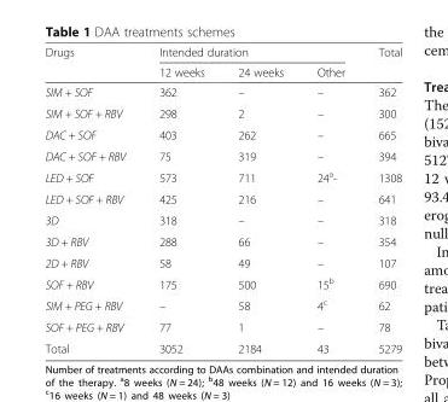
<table><thead><tr><td rowspan="2">Drugs</td><td colspan="3">Intended duration</td><td rowspan="2">Total</td></tr><tr><td>12 weeks</td><td>24 weeks</td><td>Other</td></tr></thead><tbody><tr><td>SIM + SOF</td><td>362</td><td>–</td><td>–</td><td>362</td></tr><tr><td>SIM + SOF + RBV</td><td>298</td><td>2</td><td>–</td><td>300</td></tr><tr><td>DAC + SOF</td><td>403</td><td>262</td><td>–</td><td>665</td></tr><tr><td>DAC + SOF + RBV</td><td>75</td><td>319</td><td>–</td><td>394</td></tr><tr><td>LED + SOF</td><td>573</td><td>711</td><td>24<sup>a</sup>-</td><td>1308</td></tr><tr><td>LED + SOF + RBV</td><td>425</td><td>216</td><td>–</td><td>641</td></tr><tr><td>3D</td><td>318</td><td>–</td><td>–</td><td>318</td></tr><tr><td>3D + RBV</td><td>288</td><td>66</td><td>–</td><td>354</td></tr><tr><td>2D + RBV</td><td>58</td><td>49</td><td>–</td><td>107</td></tr><tr><td>SOF + RBV</td><td>175</td><td>500</td><td>15<sup>b</sup></td><td>690</td></tr><tr><td>SIM + PEG + RBV</td><td>–</td><td>58</td><td>4<sup>c</sup></td><td>62</td></tr><tr><td>SOF + PEG + RBV</td><td>77</td><td>1</td><td>–</td><td>78</td></tr><tr><td>Total</td><td>3052</td><td>2184</td><td>43</td><td>5279</td></tr></tbody></table>